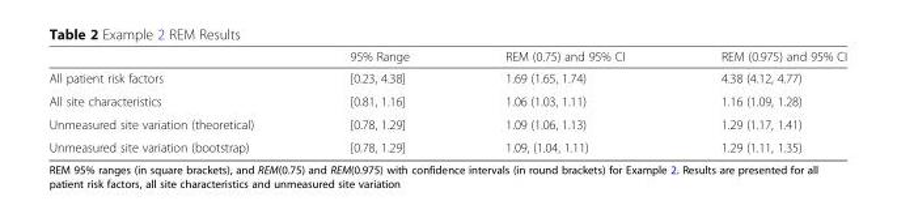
<table><thead><tr><td></td><td>95% Range</td><td>REM (0.75) and 95% CI</td><td>REM (0.975) and 95% CI</td></tr></thead><tbody><tr><td>All patient risk factors</td><td>[0.23, 4.38]</td><td>1.69 (1.65, 1.74)</td><td>4.38 (4.12, 4.77)</td></tr><tr><td>All site characteristics</td><td>[0.81, 1.16]</td><td>1.06 (1.03, 1.11)</td><td>1.16 (1.09, 1.28)</td></tr><tr><td>Unmeasured site variation (theoretical)</td><td>[0.78, 1.29]</td><td>1.09 (1.06, 1.13)</td><td>1.29 (1.17, 1.41)</td></tr><tr><td>Unmeasured site variation (bootstrap)</td><td>[0.78, 1.29]</td><td>1.09, (1.04, 1.11)</td><td>1.29 (1.11, 1.35)</td></tr></tbody></table>